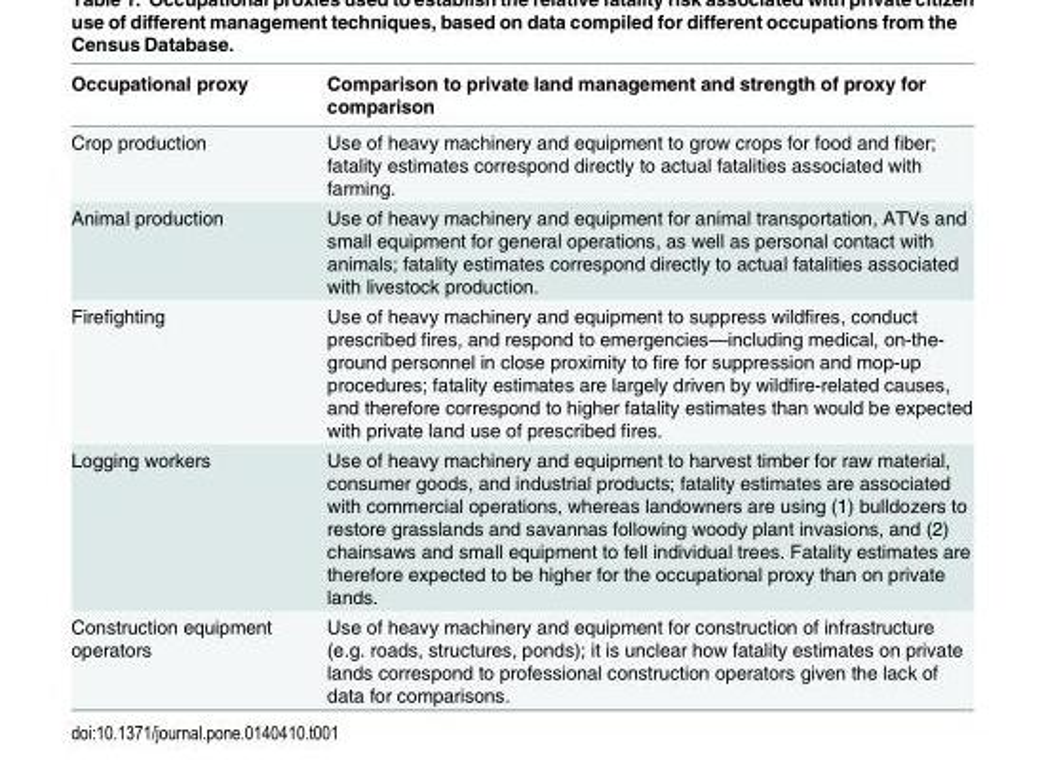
<table><thead><tr><td>Occupational proxy</td><td>Comparison to private land management and strength of proxy for comparison</td></tr></thead><tbody><tr><td>Crop production</td><td>Use of heavy machinery and equipment to grow crops for food and fiber; fatality estimates correspond directly to actual fatalities associated with farming.</td></tr><tr><td>Animal production</td><td>Use of heavy machinery and equipment for animal transportation, ATVs and small equipment for general operations, as well as personal contact with animals; fatality estimates correspond directly to actual fatalities associated with livestock production.</td></tr><tr><td>Firefighting</td><td>Use of heavy machinery and equipment to suppress wildfires, conduct prescribed fires, and respond to emergencies—including medical, on-the- ground personnel in close proximity to fire for suppression and mop-up procedures; fatality estimates are largely driven by wildfire-related causes, and therefore correspond to higher fatality estimates than would be expected with private land use of prescribed fires.</td></tr><tr><td>Logging workers</td><td>Use of heavy machinery and equipment to harvest timber for raw material, consumer goods, and industrial products; fatality estimates are associated with commercial operations, whereas landowners are using (1) bulldozers to restore grasslands and savannas following woody plant invasions, and (2) chainsaws and small equipment to fell individual trees. Fatality estimates are therefore expected to be higher for the occupational proxy than on private lands.</td></tr><tr><td>Construction equipment operators</td><td>Use of heavy machinery and equipment for construction of infrastructure (e.g. roads, structures, ponds); it is unclear how fatality estimates on private lands correspond to professional construction operators given the lack of data for comparisons.</td></tr></tbody></table>